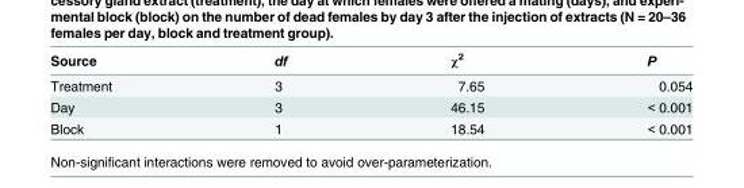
<table><thead><tr><td>Source</td><td>df</td><td>χ<sup>2</sup></td><td>P</td></tr></thead><tbody><tr><td>Treatment</td><td>3</td><td>7.65</td><td>0.054</td></tr><tr><td>Day</td><td>3</td><td>46.15</td><td>&lt; 0.001</td></tr><tr><td>Block</td><td>1</td><td>18.54</td><td>&lt; 0.001</td></tr></tbody></table>